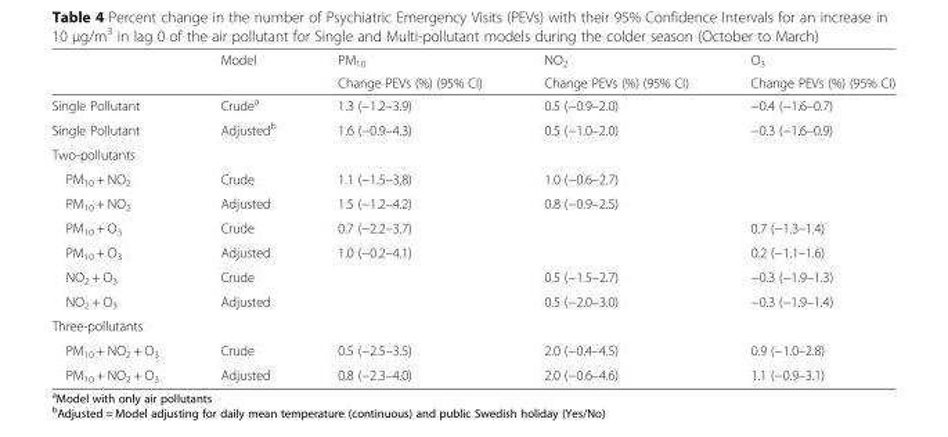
<table><thead><tr><td rowspan="2"></td><td rowspan="2">Model</td><td rowspan="2">PM<sub>10</sub> Change PEVs (%) (95% CI)</td><td rowspan="2">NO<sub>2</sub> Change PEVs (%) (95% CI)</td><td rowspan="2">O<sub>3</sub> Change PEVs (%) (95% CI)</td></tr><tr></tr></thead><tbody><tr><td>Single Pollutant</td><td>Crude<sup>a</sup></td><td>1.3 (−1.2–3.9)</td><td>0.5 (−0.9–2.0)</td><td>−0.4 (−1.6–0.7)</td></tr><tr><td>Single Pollutant</td><td>Adjusted<sup>b</sup></td><td>1.6 (−0.9–4.3)</td><td>0.5 (−1.0–2.0)</td><td>−0.3 (−1.6–0.9)</td></tr><tr><td colspan="5">Two-pollutants</td></tr><tr><td>PM<sub>10</sub> + NO<sub>2</sub></td><td>Crude</td><td>1.1 (−1.5–3.8)</td><td>1.0 (−0.6–2.7)</td><td></td></tr><tr><td>PM<sub>10</sub> + NO<sub>2</sub></td><td>Adjusted</td><td>1.5 (−1.2–4.2)</td><td>0.8 (−0.9–2.5)</td><td></td></tr><tr><td>PM<sub>10</sub> + O<sub>3</sub></td><td>Crude</td><td>0.7 (−2.2–3.7)</td><td></td><td>0.7 (−1.3–1.4)</td></tr><tr><td>PM<sub>10</sub> + O<sub>3</sub></td><td>Adjusted</td><td>1.0 (−0.2–4.1)</td><td></td><td>0.2 (−1.1–1.6)</td></tr><tr><td>NO<sub>2</sub> + O<sub>3</sub></td><td>Crude</td><td></td><td>0.5 (−1.5–2.7)</td><td>−0.3 (−1.9–1.3)</td></tr><tr><td>NO<sub>2</sub> + O<sub>3</sub></td><td>Adjusted</td><td></td><td>0.5 (−2.0–3.0)</td><td>−0.3 (−1.9–1.4)</td></tr><tr><td colspan="5">Three-pollutants</td></tr><tr><td>PM<sub>10</sub> + NO<sub>2</sub> + O<sub>3</sub></td><td>Crude</td><td>0.5 (−2.5–3.5)</td><td>2.0 (−0.4–4.5)</td><td>0.9 (−1.0–2.8)</td></tr><tr><td>PM<sub>10</sub> + NO<sub>2</sub> + O<sub>3</sub></td><td>Adjusted</td><td>0.8 (−2.3–4.0)</td><td>2.0 (−0.6–4.6)</td><td>1.1 (−0.9–3.1)</td></tr></tbody></table>